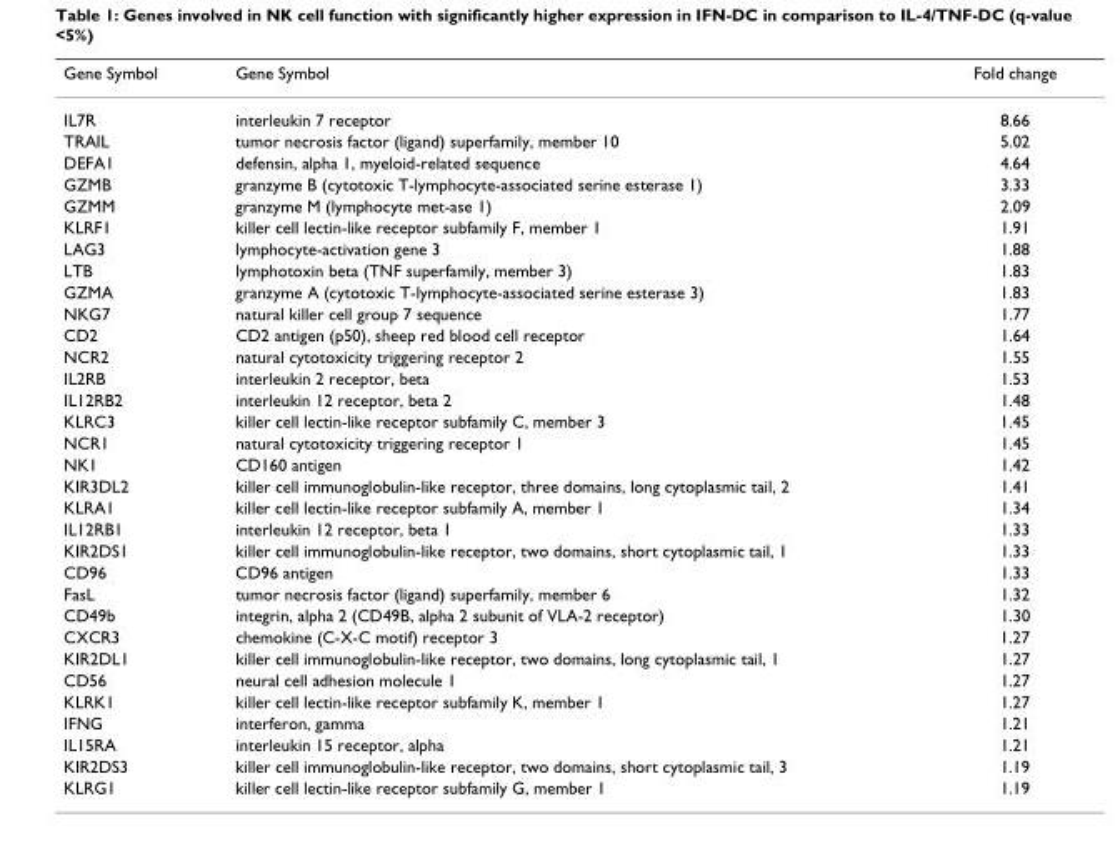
<table><thead><tr><td>Gene Symbol</td><td>Gene Symbol</td><td>Fold change</td></tr></thead><tbody><tr><td>IL7R</td><td>interleukin 7 receptor</td><td>8.66</td></tr><tr><td>TRAIL</td><td>tumor necrosis factor (ligand) superfamily, member 10</td><td>5.02</td></tr><tr><td>DEFA1</td><td>defensin, alpha 1, myeloid-related sequence</td><td>4.64</td></tr><tr><td>GZMB</td><td>granzyme B (cytotoxic T-lymphocyte-associated serine esterase 1)</td><td>3.33</td></tr><tr><td>GZMM</td><td>granzyme M (lymphocyte met-ase 1)</td><td>2.09</td></tr><tr><td>KLRF1</td><td>killer cell lectin-like receptor subfamily F, member 1</td><td>1.91</td></tr><tr><td>LAG3</td><td>lymphocyte-activation gene 3</td><td>1.88</td></tr><tr><td>LTB</td><td>lymphotoxin beta (TNF superfamily, member 3)</td><td>1.83</td></tr><tr><td>GZMA</td><td>granzyme A (cytotoxic T-lymphocyte-associated serine esterase 3)</td><td>1.83</td></tr><tr><td>NKG7</td><td>natural killer cell group 7 sequence</td><td>1.77</td></tr><tr><td>CD2</td><td>CD2 antigen (p50), sheep red blood cell receptor</td><td>1.64</td></tr><tr><td>NCR2</td><td>natural cytotoxicity triggering receptor 2</td><td>1.55</td></tr><tr><td>IL2RB</td><td>interleukin 2 receptor, beta</td><td>1.53</td></tr><tr><td>IL12RB2</td><td>interleukin 12 receptor, beta 2</td><td>1.48</td></tr><tr><td>KLRC3</td><td>killer cell lectin-like receptor subfamily C, member 3</td><td>1.45</td></tr><tr><td>NCR1</td><td>natural cytotoxicity triggering receptor 1</td><td>1.45</td></tr><tr><td>NK1</td><td>CD160 antigen</td><td>1.42</td></tr><tr><td>KIR3DL2</td><td>killer cell immunoglobulin-like receptor, three domains, long cytoplasmic tail, 2</td><td>1.41</td></tr><tr><td>KLRA1</td><td>killer cell lectin-like receptor subfamily A, member 1</td><td>1.34</td></tr><tr><td>IL12RB1</td><td>interleukin 12 receptor, beta 1</td><td>1.33</td></tr><tr><td>KIR2DS1</td><td>killer cell immunoglobulin-like receptor, two domains, short cytoplasmic tail, 1</td><td>1.33</td></tr><tr><td>CD96</td><td>CD96 antigen</td><td>1.33</td></tr><tr><td>FasL</td><td>tumor necrosis factor (ligand) superfamily, member 6</td><td>1.32</td></tr><tr><td>CD49b</td><td>integrin, alpha 2 (CD49B, alpha 2 subunit of VLA-2 receptor)</td><td>1.30</td></tr><tr><td>CXCR3</td><td>chemokine (C-X-C motif) receptor 3</td><td>1.27</td></tr><tr><td>KIR2DL1</td><td>killer cell immunoglobulin-like receptor, two domains, long cytoplasmic tail, 1</td><td>1.27</td></tr><tr><td>CD56</td><td>neural cell adhesion molecule 1</td><td>1.27</td></tr><tr><td>KLRK1</td><td>killer cell lectin-like receptor subfamily K, member 1</td><td>1.27</td></tr><tr><td>IFNG</td><td>interferon, gamma</td><td>1.21</td></tr><tr><td>IL15RA</td><td>interleukin 15 receptor, alpha</td><td>1.21</td></tr><tr><td>KIR2DS3</td><td>killer cell immunoglobulin-like receptor, two domains, short cytoplasmic tail, 3</td><td>1.19</td></tr><tr><td>KLRG1</td><td>killer cell lectin-like receptor subfamily G, member 1</td><td>1.19</td></tr></tbody></table>